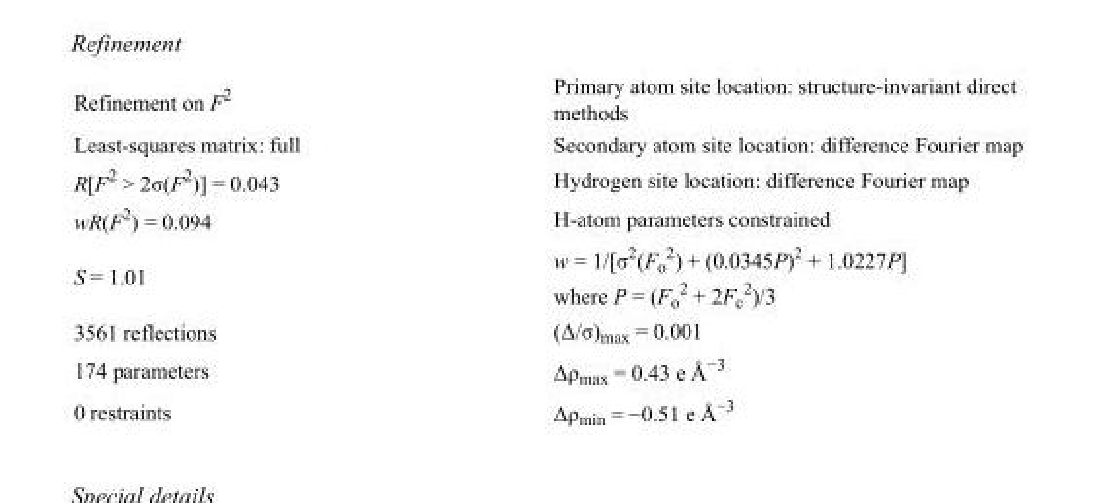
<table><tbody><tr><td>Refinement on F<sup>2</sup></td><td>Primary atom site location: structure-invariant direct methods</td></tr><tr><td>Least-squares matrix: full</td><td>Secondary atom site location: difference Fourier map</td></tr><tr><td>R[F<sup>2</sup> &gt; 2σ(F<sup>2</sup>)] = 0.043</td><td>Hydrogen site location: difference Fourier map</td></tr><tr><td>wR(F<sup>2</sup>) = 0.094</td><td>H-atom parameters constrained</td></tr><tr><td>S = 1.01</td><td>w = 1/[σ<sup>2</sup>(F<sub>o</sub> <sup>2</sup>) + (0.0345P)<sup>2</sup> + 1.0227P] where P = (F<sub>o</sub> <sup>2</sup> + 2F<sub>c</sub> <sup>2</sup>)/3</td></tr><tr><td>3561 reflections</td><td>(Δ/σ)<sub>max</sub> = 0.001</td></tr><tr><td>174 parameters</td><td>Δρ<sub>max</sub> = 0.43 e Å<sup>−3</sup></td></tr><tr><td>0 restraints</td><td>Δρ<sub>min</sub> = −0.51 e Å<sup>−3</sup></td></tr></tbody></table>